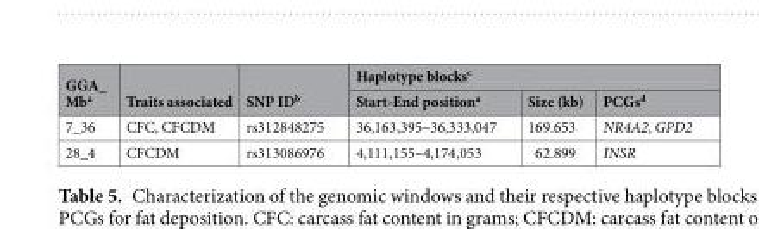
<table><thead><tr><td rowspan="2">GGA_ Mb<sup>a</sup></td><td rowspan="2">Traits associated</td><td rowspan="2">SNP ID<sup>b</sup></td><td colspan="3">Haplotype blocks<sup>c</sup></td></tr><tr><td>Start-End position<sup>a</sup></td><td>Size (kb)</td><td>PCGs<sup>d</sup></td></tr></thead><tbody><tr><td>7_36</td><td>CFC, CFCDM</td><td>rs312848275</td><td>36,163,395–36,333,047</td><td>169.653</td><td>NR4A2, GPD2</td></tr><tr><td>28_4</td><td>CFCDM</td><td>rs313086976</td><td>4,111,155–4,174,053</td><td>62.899</td><td>INSR</td></tr></tbody></table>